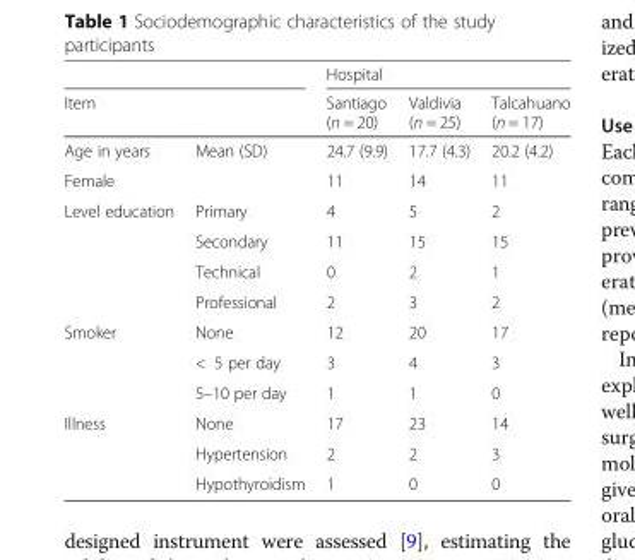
<table><thead><tr><td rowspan="2">Item</td><td rowspan="2"></td><td colspan="3">Hospital</td></tr><tr><td>Santiago (n = 20)</td><td>Valdivia (n = 25)</td><td>Talcahuano (n = 17)</td></tr></thead><tbody><tr><td>Age in years</td><td>Mean (SD)</td><td>24.7 (9.9)</td><td>17.7 (4.3)</td><td>20.2 (4.2)</td></tr><tr><td>Female</td><td></td><td>11</td><td>14</td><td>11</td></tr><tr><td rowspan="4">Level education</td><td>Primary</td><td>4</td><td>5</td><td>2</td></tr><tr><td>Secondary</td><td>11</td><td>15</td><td>15</td></tr><tr><td>Technical</td><td>0</td><td>2</td><td>1</td></tr><tr><td>Professional</td><td>2</td><td>3</td><td>2</td></tr><tr><td rowspan="3">Smoker</td><td>None</td><td>12</td><td>20</td><td>17</td></tr><tr><td>&lt; 5 per day</td><td>3</td><td>4</td><td>3</td></tr><tr><td>5–10 per day</td><td>1</td><td>1</td><td>0</td></tr><tr><td rowspan="3">Illness</td><td>None</td><td>17</td><td>23</td><td>14</td></tr><tr><td>Hypertension</td><td>2</td><td>2</td><td>3</td></tr><tr><td>Hypothyroidism</td><td>1</td><td>0</td><td>0</td></tr></tbody></table>